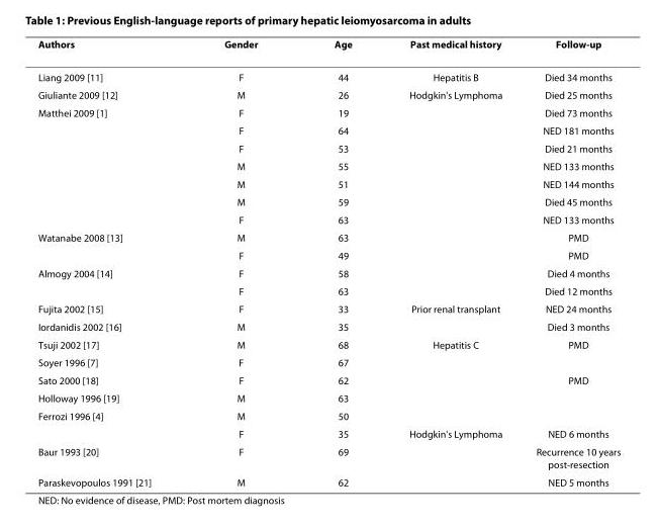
<table><thead><tr><td>Authors</td><td>Gender</td><td>Age</td><td>Past medical history</td><td>Follow-up</td></tr></thead><tbody><tr><td>Liang 2009 [11]</td><td>F</td><td>44</td><td>Hepatitis B</td><td>Died 34 months</td></tr><tr><td>Giuliante 2009 [12]</td><td>M</td><td>26</td><td>Hodgkin&#x27;s Lymphoma</td><td>Died 25 months</td></tr><tr><td rowspan="7">Matthei 2009 [1]</td><td>F</td><td>19</td><td></td><td>Died 73 months</td></tr><tr><td>F</td><td>64</td><td></td><td>NED 181 months</td></tr><tr><td>F</td><td>53</td><td></td><td>Died 21 months</td></tr><tr><td>M</td><td>55</td><td></td><td>NED 133 months</td></tr><tr><td>M</td><td>51</td><td></td><td>NED 144 months</td></tr><tr><td>M</td><td>59</td><td></td><td>Died 45 months</td></tr><tr><td>F</td><td>63</td><td></td><td>NED 133 months</td></tr><tr><td rowspan="2">Watanabe 2008 [13]</td><td>M</td><td>63</td><td></td><td>PMD</td></tr><tr><td>F</td><td>49</td><td></td><td>PMD</td></tr><tr><td rowspan="2">Almogy 2004 [14]</td><td>F</td><td>58</td><td></td><td>Died 4 months</td></tr><tr><td>F</td><td>63</td><td></td><td>Died 12 months</td></tr><tr><td>Fujita 2002 [15]</td><td>F</td><td>33</td><td>Prior renal transplant</td><td>NED 24 months</td></tr><tr><td>Iordanidis 2002 [16]</td><td>M</td><td>35</td><td></td><td>Died 3 months</td></tr><tr><td>Tsuji 2002 [17]</td><td>M</td><td>68</td><td>Hepatitis C</td><td>PMD</td></tr><tr><td>Soyer 1996 [7]</td><td>F</td><td>67</td><td></td><td></td></tr><tr><td>Sato 2000 [18]</td><td>F</td><td>62</td><td></td><td>PMD</td></tr><tr><td>Holloway 1996 [19]</td><td>M</td><td>63</td><td></td><td></td></tr><tr><td rowspan="2">Ferrozi 1996 [4]</td><td>M</td><td>50</td><td></td><td></td></tr><tr><td>F</td><td>35</td><td>Hodgkin&#x27;s Lymphoma</td><td>NED 6 months</td></tr><tr><td>Baur 1993 [20]</td><td>F</td><td>69</td><td></td><td>Recurrence 10 years post-resection</td></tr><tr><td>Paraskevopoulos 1991 [21]</td><td>M</td><td>62</td><td></td><td>NED 5 months</td></tr></tbody></table>